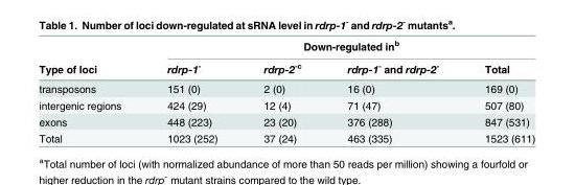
<table><thead><tr><td rowspan="2">Type of loci</td><td colspan="4">Down-regulated in<sup>b</sup></td></tr><tr><td>rdrp-1<sup>-</sup></td><td>rdrp-2<sup>-c</sup></td><td>rdrp-1<sup>-</sup> and rdrp-2<sup>-</sup></td><td>Total</td></tr></thead><tbody><tr><td>transposons</td><td>151 (0)</td><td>2 (0)</td><td>16 (0)</td><td>169 (0)</td></tr><tr><td>intergenic regions</td><td>424 (29)</td><td>12 (4)</td><td>71 (47)</td><td>507 (80)</td></tr><tr><td>exons</td><td>448 (223)</td><td>23 (20)</td><td>376 (288)</td><td>847 (531)</td></tr><tr><td>Total</td><td>1023 (252)</td><td>37 (24)</td><td>463 (335)</td><td>1523 (611)</td></tr></tbody></table>